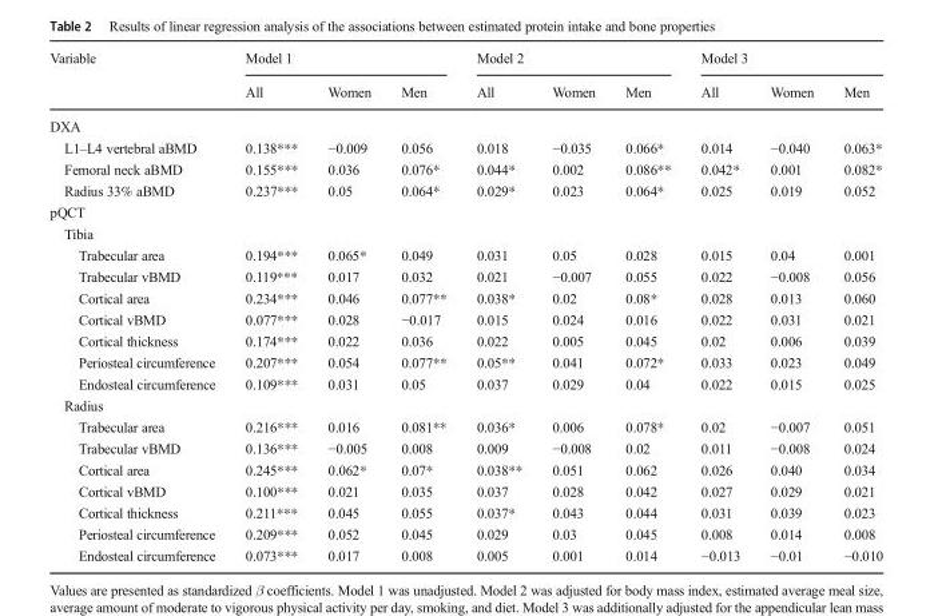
<table><thead><tr><td rowspan="2">Variable</td><td colspan="3">Model 1</td><td colspan="3">Model 2</td><td colspan="3">Model 3</td></tr><tr><td>All</td><td>Women</td><td>Men</td><td>All</td><td>Women</td><td>Men</td><td>All</td><td>Women</td><td>Men</td></tr></thead><tbody><tr><td colspan="10">DXA</td></tr><tr><td>L1–L4 vertebral aBMD</td><td>0.138***</td><td>−0.009</td><td>0.056</td><td>0.018</td><td>−0.035</td><td>0.066*</td><td>0.014</td><td>−0.040</td><td>0.063*</td></tr><tr><td>Femoral neck aBMD</td><td>0.155***</td><td>0.036</td><td>0.076*</td><td>0.044*</td><td>0.002</td><td>0.086**</td><td>0.042*</td><td>0.001</td><td>0.082*</td></tr><tr><td>Radius 33% aBMD</td><td>0.237***</td><td>0.05</td><td>0.064*</td><td>0.029*</td><td>0.023</td><td>0.064*</td><td>0.025</td><td>0.019</td><td>0.052</td></tr><tr><td colspan="10">pQCT</td></tr><tr><td colspan="10">Tibia</td></tr><tr><td>Trabecular area</td><td>0.194***</td><td>0.065*</td><td>0.049</td><td>0.031</td><td>0.05</td><td>0.028</td><td>0.015</td><td>0.04</td><td>0.001</td></tr><tr><td>Trabecular vBMD</td><td>0.119***</td><td>0.017</td><td>0.032</td><td>0.021</td><td>−0.007</td><td>0.055</td><td>0.022</td><td>−0.008</td><td>0.056</td></tr><tr><td>Cortical area</td><td>0.234***</td><td>0.046</td><td>0.077**</td><td>0.038*</td><td>0.02</td><td>0.08*</td><td>0.028</td><td>0.013</td><td>0.060</td></tr><tr><td>Cortical vBMD</td><td>0.077***</td><td>0.028</td><td>−0.017</td><td>0.015</td><td>0.024</td><td>0.016</td><td>0.022</td><td>0.031</td><td>0.021</td></tr><tr><td>Cortical thickness</td><td>0.174***</td><td>0.022</td><td>0.036</td><td>0.022</td><td>0.005</td><td>0.045</td><td>0.02</td><td>0.006</td><td>0.039</td></tr><tr><td>Periosteal circumference</td><td>0.207***</td><td>0.054</td><td>0.077**</td><td>0.05**</td><td>0.041</td><td>0.072*</td><td>0.033</td><td>0.023</td><td>0.049</td></tr><tr><td>Endosteal circumference</td><td>0.109***</td><td>0.031</td><td>0.05</td><td>0.037</td><td>0.029</td><td>0.04</td><td>0.022</td><td>0.015</td><td>0.025</td></tr><tr><td colspan="10">Radius</td></tr><tr><td>Trabecular area</td><td>0.216***</td><td>0.016</td><td>0.081**</td><td>0.036*</td><td>0.006</td><td>0.078*</td><td>0.02</td><td>−0.007</td><td>0.051</td></tr><tr><td>Trabecular vBMD</td><td>0.136***</td><td>−0.005</td><td>0.008</td><td>0.009</td><td>−0.008</td><td>0.02</td><td>0.011</td><td>−0.008</td><td>0.024</td></tr><tr><td>Cortical area</td><td>0.245***</td><td>0.062*</td><td>0.07*</td><td>0.038**</td><td>0.051</td><td>0.062</td><td>0.026</td><td>0.040</td><td>0.034</td></tr><tr><td>Cortical vBMD</td><td>0.100***</td><td>0.021</td><td>0.035</td><td>0.037</td><td>0.028</td><td>0.042</td><td>0.027</td><td>0.029</td><td>0.021</td></tr><tr><td>Cortical thickness</td><td>0.211***</td><td>0.045</td><td>0.055</td><td>0.037*</td><td>0.043</td><td>0.044</td><td>0.031</td><td>0.039</td><td>0.023</td></tr><tr><td>Periosteal circumference</td><td>0.209***</td><td>0.052</td><td>0.045</td><td>0.029</td><td>0.03</td><td>0.045</td><td>0.008</td><td>0.014</td><td>0.008</td></tr><tr><td>Endosteal circumference</td><td>0.073***</td><td>0.017</td><td>0.008</td><td>0.005</td><td>0.001</td><td>0.014</td><td>−0.013</td><td>−0.01</td><td>−0.010</td></tr></tbody></table>